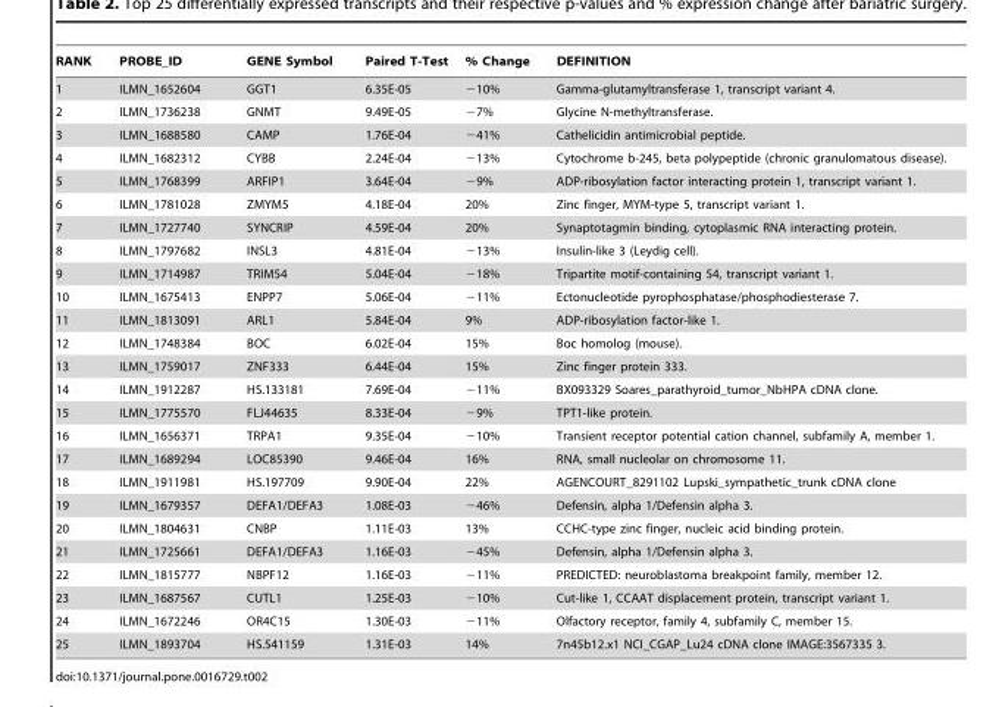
<table><thead><tr><td>RANK</td><td>PROBE_ID</td><td>GENE Symbol</td><td>Paired T-Test</td><td>% Change</td><td>DEFINITION</td></tr></thead><tbody><tr><td>1</td><td>ILMN_1652604</td><td>GGT1</td><td>6.35E-05</td><td>−10%</td><td>Gamma-glutamyltransferase 1, transcript variant 4.</td></tr><tr><td>2</td><td>ILMN_1736238</td><td>GNMT</td><td>9.49E-05</td><td>−7%</td><td>Glycine N-methyltransferase.</td></tr><tr><td>3</td><td>ILMN_1688580</td><td>CAMP</td><td>1.76E-04</td><td>−41%</td><td>Cathelicidin antimicrobial peptide.</td></tr><tr><td>4</td><td>ILMN_1682312</td><td>CYBB</td><td>2.24E-04</td><td>−13%</td><td>Cytochrome b-245, beta polypeptide (chronic granulomatous disease).</td></tr><tr><td>5</td><td>ILMN_1768399</td><td>ARFIP1</td><td>3.64E-04</td><td>−9%</td><td>ADP-ribosylation factor interacting protein 1, transcript variant 1.</td></tr><tr><td>6</td><td>ILMN_1781028</td><td>ZMYM5</td><td>4.18E-04</td><td>20%</td><td>Zinc finger, MYM-type 5, transcript variant 1.</td></tr><tr><td>7</td><td>ILMN_1727740</td><td>SYNCRIP</td><td>4.59E-04</td><td>20%</td><td>Synaptotagmin binding, cytoplasmic RNA interacting protein.</td></tr><tr><td>8</td><td>ILMN_1797682</td><td>INSL3</td><td>4.81E-04</td><td>−13%</td><td>Insulin-like 3 (Leydig cell).</td></tr><tr><td>9</td><td>ILMN_1714987</td><td>TRIM54</td><td>5.04E-04</td><td>−18%</td><td>Tripartite motif-containing 54, transcript variant 1.</td></tr><tr><td>10</td><td>ILMN_1675413</td><td>ENPP7</td><td>5.06E-04</td><td>−11%</td><td>Ectonucleotide pyrophosphatase/phosphodiesterase 7.</td></tr><tr><td>11</td><td>ILMN_1813091</td><td>ARL1</td><td>5.84E-04</td><td>9%</td><td>ADP-ribosylation factor-like 1.</td></tr><tr><td>12</td><td>ILMN_1748384</td><td>BOC</td><td>6.02E-04</td><td>15%</td><td>Boc homolog (mouse).</td></tr><tr><td>13</td><td>ILMN_1759017</td><td>ZNF333</td><td>6.44E-04</td><td>15%</td><td>Zinc finger protein 333.</td></tr><tr><td>14</td><td>ILMN_1912287</td><td>HS.133181</td><td>7.69E-04</td><td>−11%</td><td>BX093329 Soares_parathyroid_tumor_NbHPA cDNA clone.</td></tr><tr><td>15</td><td>ILMN_1775570</td><td>FLJ44635</td><td>8.33E-04</td><td>−9%</td><td>TPT1-like protein.</td></tr><tr><td>16</td><td>ILMN_1656371</td><td>TRPA1</td><td>9.35E-04</td><td>−10%</td><td>Transient receptor potential cation channel, subfamily A, member 1.</td></tr><tr><td>17</td><td>ILMN_1689294</td><td>LOC85390</td><td>9.46E-04</td><td>16%</td><td>RNA, small nucleolar on chromosome 11.</td></tr><tr><td>18</td><td>ILMN_1911981</td><td>HS.197709</td><td>9.90E-04</td><td>22%</td><td>AGENCOURT_8291102 Lupski_sympathetic_trunk cDNA clone</td></tr><tr><td>19</td><td>ILMN_1679357</td><td>DEFA1/DEFA3</td><td>1.08E-03</td><td>−46%</td><td>Defensin, alpha 1/Defensin alpha 3.</td></tr><tr><td>20</td><td>ILMN_1804631</td><td>CNBP</td><td>1.11E-03</td><td>13%</td><td>CCHC-type zinc finger, nucleic acid binding protein.</td></tr><tr><td>21</td><td>ILMN_1725661</td><td>DEFA1/DEFA3</td><td>1.16E-03</td><td>−45%</td><td>Defensin, alpha 1/Defensin alpha 3.</td></tr><tr><td>22</td><td>ILMN_1815777</td><td>NBPF12</td><td>1.16E-03</td><td>−11%</td><td>PREDICTED: neuroblastoma breakpoint family, member 12.</td></tr><tr><td>23</td><td>ILMN_1687567</td><td>CUTL1</td><td>1.25E-03</td><td>−10%</td><td>Cut-like 1, CCAAT displacement protein, transcript variant 1.</td></tr><tr><td>24</td><td>ILMN_1672246</td><td>OR4C15</td><td>1.30E-03</td><td>−11%</td><td>Olfactory receptor, family 4, subfamily C, member 15.</td></tr><tr><td>25</td><td>ILMN_1893704</td><td>HS.541159</td><td>1.31E-03</td><td>14%</td><td>7n45b12.x1 NCI_CGAP_Lu24 cDNA clone IMAGE:3567335 3.</td></tr></tbody></table>